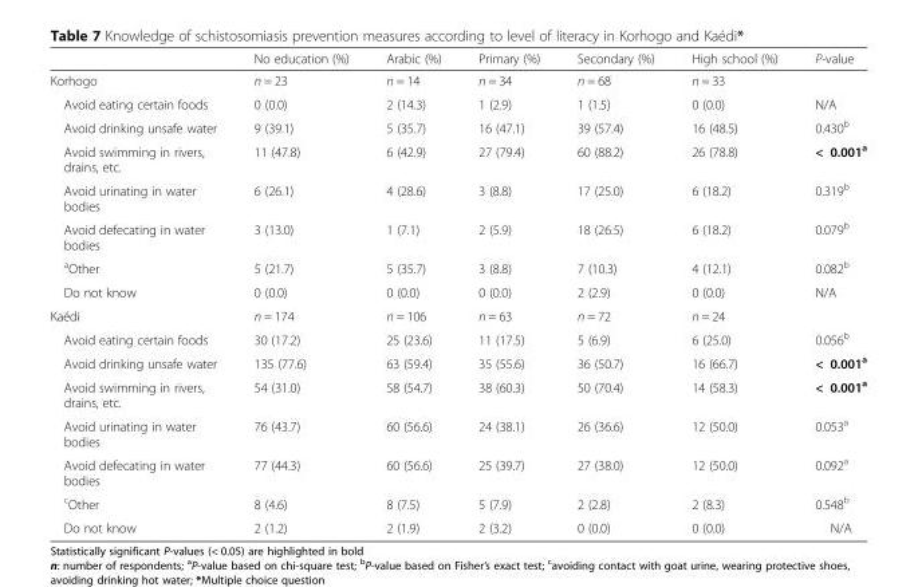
<table><thead><tr><td></td><td>No education (%)</td><td>Arabic (%)</td><td>Primary (%)</td><td>Secondary (%)</td><td>High school (%)</td><td>P-value</td></tr></thead><tbody><tr><td>Korhogo</td><td>n = 23</td><td>n = 14</td><td>n = 34</td><td>n = 68</td><td>n = 33</td><td></td></tr><tr><td>Avoid eating certain foods</td><td>0 (0.0)</td><td>2 (14.3)</td><td>1 (2.9)</td><td>1 (1.5)</td><td>0 (0.0)</td><td>N/A</td></tr><tr><td>Avoid drinking unsafe water</td><td>9 (39.1)</td><td>5 (35.7)</td><td>16 (47.1)</td><td>39 (57.4)</td><td>16 (48.5)</td><td>0.430<sup>b</sup></td></tr><tr><td>Avoid swimming in rivers, drains, etc.</td><td>11 (47.8)</td><td>6 (42.9)</td><td>27 (79.4)</td><td>60 (88.2)</td><td>26 (78.8)</td><td>&lt; 0.001<sup>a</sup></td></tr><tr><td>Avoid urinating in water bodies</td><td>6 (26.1)</td><td>4 (28.6)</td><td>3 (8.8)</td><td>17 (25.0)</td><td>6 (18.2)</td><td>0.319<sup>b</sup></td></tr><tr><td>Avoid defecating in water bodies</td><td>3 (13.0)</td><td>1 (7.1)</td><td>2 (5.9)</td><td>18 (26.5)</td><td>6 (18.2)</td><td>0.079<sup>b</sup></td></tr><tr><td><sup>a</sup>Other</td><td>5 (21.7)</td><td>5 (35.7)</td><td>3 (8.8)</td><td>7 (10.3)</td><td>4 (12.1)</td><td>0.082<sup>b</sup></td></tr><tr><td>Do not know</td><td>0 (0.0)</td><td>0 (0.0)</td><td>0 (0.0)</td><td>2 (2.9)</td><td>0 (0.0)</td><td>N/A</td></tr><tr><td>Kaédi</td><td>n = 174</td><td>n = 106</td><td>n = 63</td><td>n = 72</td><td>n = 24</td><td></td></tr><tr><td>Avoid eating certain foods</td><td>30 (17.2)</td><td>25 (23.6)</td><td>11 (17.5)</td><td>5 (6.9)</td><td>6 (25.0)</td><td>0.056<sup>b</sup></td></tr><tr><td>Avoid drinking unsafe water</td><td>135 (77.6)</td><td>63 (59.4)</td><td>35 (55.6)</td><td>36 (50.7)</td><td>16 (66.7)</td><td>&lt; 0.001<sup>a</sup></td></tr><tr><td>Avoid swimming in rivers, drains, etc.</td><td>54 (31.0)</td><td>58 (54.7)</td><td>38 (60.3)</td><td>50 (70.4)</td><td>14 (58.3)</td><td>&lt; 0.001<sup>a</sup></td></tr><tr><td>Avoid urinating in water bodies</td><td>76 (43.7)</td><td>60 (56.6)</td><td>24 (38.1)</td><td>26 (36.6)</td><td>12 (50.0)</td><td>0.053<sup>a</sup></td></tr><tr><td>Avoid defecating in water bodies</td><td>77 (44.3)</td><td>60 (56.6)</td><td>25 (39.7)</td><td>27 (38.0)</td><td>12 (50.0)</td><td>0.092<sup>a</sup></td></tr><tr><td><sup>c</sup>Other</td><td>8 (4.6)</td><td>8 (7.5)</td><td>5 (7.9)</td><td>2 (2.8)</td><td>2 (8.3)</td><td>0.548<sup>b</sup></td></tr><tr><td>Do not know</td><td>2 (1.2)</td><td>2 (1.9)</td><td>2 (3.2)</td><td>0 (0.0)</td><td>0 (0.0)</td><td>N/A</td></tr></tbody></table>